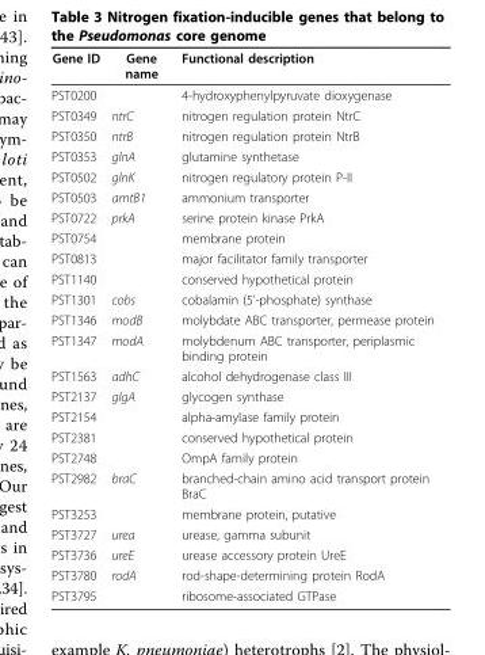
<table><thead><tr><td>Gene ID</td><td>Gene name</td><td>Functional description</td></tr></thead><tbody><tr><td>PST0200</td><td></td><td>4-hydroxyphenylpyruvate dioxygenase</td></tr><tr><td>PST0349</td><td>ntrC</td><td>nitrogen regulation protein NtrC</td></tr><tr><td>PST0350</td><td>ntrB</td><td>nitrogen regulation protein NtrB</td></tr><tr><td>PST0353</td><td>glnA</td><td>glutamine synthetase</td></tr><tr><td>PST0502</td><td>glnK</td><td>nitrogen regulatory protein P-II</td></tr><tr><td>PST0503</td><td>amtB1</td><td>ammonium transporter</td></tr><tr><td>PST0722</td><td>prkA</td><td>serine protein kinase PrkA</td></tr><tr><td>PST0754</td><td></td><td>membrane protein</td></tr><tr><td>PST0813</td><td></td><td>major facilitator family transporter</td></tr><tr><td>PST1140</td><td></td><td>conserved hypothetical protein</td></tr><tr><td>PST1301</td><td>cobs</td><td>cobalamin (5’-phosphate) synthase</td></tr><tr><td>PST1346</td><td>modB</td><td>molybdate ABC transporter, permease protein</td></tr><tr><td>PST1347</td><td>modA</td><td>molybdenum ABC transporter, periplasmic binding protein</td></tr><tr><td>PST1563</td><td>adhC</td><td>alcohol dehydrogenase class III</td></tr><tr><td>PST2137</td><td>glgA</td><td>glycogen synthase</td></tr><tr><td>PST2154</td><td></td><td>alpha-amylase family protein</td></tr><tr><td>PST2381</td><td></td><td>conserved hypothetical protein</td></tr><tr><td>PST2748</td><td></td><td>OmpA family protein</td></tr><tr><td>PST2982</td><td>braC</td><td>branched-chain amino acid transport protein BraC</td></tr><tr><td>PST3253</td><td></td><td>membrane protein, putative</td></tr><tr><td>PST3727</td><td>urea</td><td>urease, gamma subunit</td></tr><tr><td>PST3736</td><td>ureE</td><td>urease accessory protein UreE</td></tr><tr><td>PST3780</td><td>rodA</td><td>rod-shape-determining protein RodA</td></tr><tr><td>PST3795</td><td></td><td>ribosome-associated GTPase</td></tr></tbody></table>